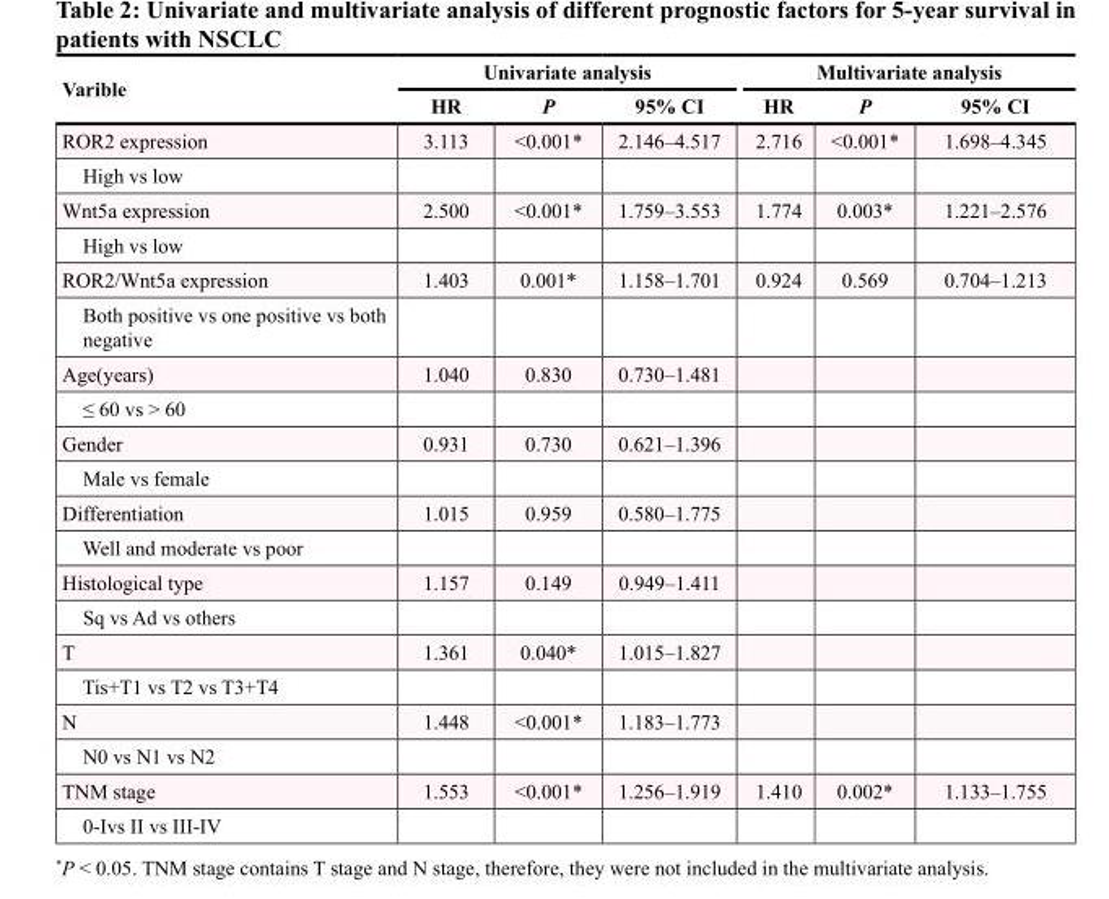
<table><thead><tr><td rowspan="2">Varible</td><td colspan="3">Univariate analysis</td><td colspan="3">Multivariate analysis</td></tr><tr><td>HR</td><td>P</td><td>95% CI</td><td>HR</td><td>P</td><td>95% CI</td></tr></thead><tbody><tr><td>ROR2 expression</td><td>3.113</td><td>&lt;0.001*</td><td>2.146–4.517</td><td>2.716</td><td>&lt;0.001*</td><td>1.698–4.345</td></tr><tr><td colspan="7">High vs low</td></tr><tr><td>Wnt5a expression</td><td>2.500</td><td>&lt;0.001*</td><td>1.759–3.553</td><td>1.774</td><td>0.003*</td><td>1.221–2.576</td></tr><tr><td colspan="7">High vs low</td></tr><tr><td>ROR2/Wnt5a expression</td><td>1.403</td><td>0.001*</td><td>1.158–1.701</td><td>0.924</td><td>0.569</td><td>0.704–1.213</td></tr><tr><td colspan="7">Both positive vs one positive vs both negative</td></tr><tr><td>Age(years)</td><td>1.040</td><td>0.830</td><td>0.730–1.481</td><td></td><td></td><td></td></tr><tr><td colspan="7">≤ 60 vs &gt; 60</td></tr><tr><td>Gender</td><td>0.931</td><td>0.730</td><td>0.621–1.396</td><td></td><td></td><td></td></tr><tr><td colspan="7">Male vs female</td></tr><tr><td>Differentiation</td><td>1.015</td><td>0.959</td><td>0.580–1.775</td><td></td><td></td><td></td></tr><tr><td colspan="7">Well and moderate vs poor</td></tr><tr><td>Histological type</td><td>1.157</td><td>0.149</td><td>0.949–1.411</td><td></td><td></td><td></td></tr><tr><td colspan="7">Sq vs Ad vs others</td></tr><tr><td>T</td><td>1.361</td><td>0.040*</td><td>1.015–1.827</td><td></td><td></td><td></td></tr><tr><td colspan="7">Tis+T1 vs T2 vs T3+T4</td></tr><tr><td>N</td><td>1.448</td><td>&lt;0.001*</td><td>1.183–1.773</td><td></td><td></td><td></td></tr><tr><td colspan="7">N0 vs N1 vs N2</td></tr><tr><td>TNM stage</td><td>1.553</td><td>&lt;0.001*</td><td>1.256–1.919</td><td>1.410</td><td>0.002*</td><td>1.133–1.755</td></tr><tr><td>0-Ivs II vs III-IV</td><td></td><td></td><td></td><td></td><td></td><td></td></tr></tbody></table>